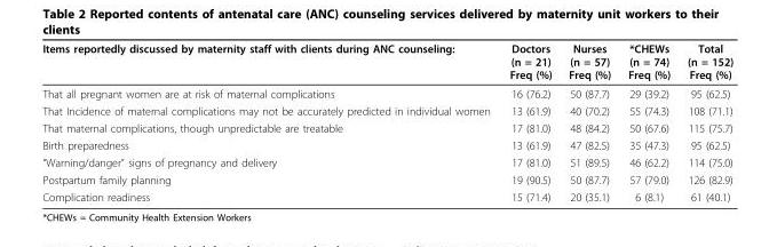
<table><thead><tr><td>Items reportedly discussed by maternity staff with clients during ANC counseling:</td><td>Doctors (n = 21) Freq (%)</td><td>Nurses (n = 57) Freq (%)</td><td>*CHEWs (n = 74) Freq (%)</td><td>Total (n = 152) Freq (%)</td></tr></thead><tbody><tr><td>That all pregnant women are at risk of maternal complications</td><td>16 (76.2)</td><td>50 (87.7)</td><td>29 (39.2)</td><td>95 (62.5)</td></tr><tr><td>That Incidence of maternal complications may not be accurately predicted in individual women</td><td>13 (61.9)</td><td>40 (70.2)</td><td>55 (74.3)</td><td>108 (71.1)</td></tr><tr><td>That maternal complications, though unpredictable are treatable</td><td>17 (81.0)</td><td>48 (84.2)</td><td>50 (67.6)</td><td>115 (75.7)</td></tr><tr><td>Birth preparedness</td><td>13 (61.9)</td><td>47 (82.5)</td><td>35 (47.3)</td><td>95 (62.5)</td></tr><tr><td>“Warning/danger” signs of pregnancy and delivery</td><td>17 (81.0)</td><td>51 (89.5)</td><td>46 (62.2)</td><td>114 (75.0)</td></tr><tr><td>Postpartum family planning</td><td>19 (90.5)</td><td>50 (87.7)</td><td>57 (79.0)</td><td>126 (82.9)</td></tr><tr><td>Complication readiness</td><td>15 (71.4)</td><td>20 (35.1)</td><td>6 (8.1)</td><td>61 (40.1)</td></tr></tbody></table>